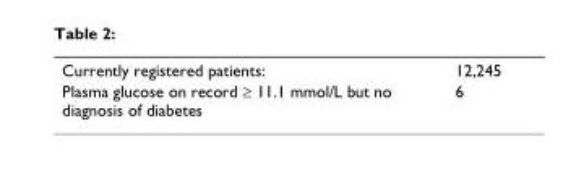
<table><tbody><tr><td>Currently registered patients:</td><td>12,245</td></tr><tr><td>Plasma glucose on record ≥ 11.1 mmol/L but no diagnosis of diabetes</td><td>6</td></tr></tbody></table>